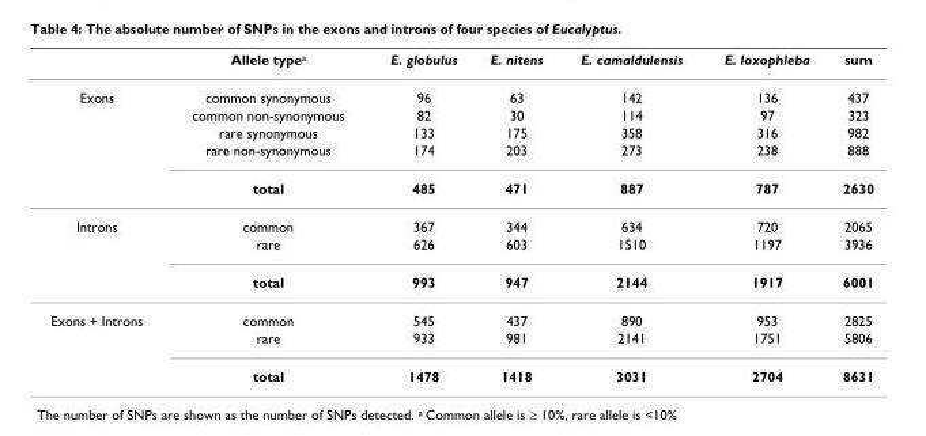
<table><thead><tr><td></td><td>Allele type<sup>a</sup></td><td>E. globulus</td><td>E. nitens</td><td>E. camaldulensis</td><td>E. loxophleba</td><td>sum</td></tr></thead><tbody><tr><td rowspan="5">Exons</td><td>common synonymous</td><td>96</td><td>63</td><td>142</td><td>136</td><td>437</td></tr><tr><td>common non-synonymous</td><td>82</td><td>30</td><td>114</td><td>97</td><td>323</td></tr><tr><td>rare synonymous</td><td>133</td><td>175</td><td>358</td><td>316</td><td>982</td></tr><tr><td>rare non-synonymous</td><td>174</td><td>203</td><td>273</td><td>238</td><td>888</td></tr><tr><td>total</td><td>485</td><td>471</td><td>887</td><td>787</td><td>2630</td></tr><tr><td rowspan="3">Introns</td><td>common</td><td>367</td><td>344</td><td>634</td><td>720</td><td>2065</td></tr><tr><td>rare</td><td>626</td><td>603</td><td>1510</td><td>1197</td><td>3936</td></tr><tr><td>total</td><td>993</td><td>947</td><td>2144</td><td>1917</td><td>6001</td></tr><tr><td rowspan="3">Exons + Introns</td><td>common</td><td>545</td><td>437</td><td>890</td><td>953</td><td>2825</td></tr><tr><td>rare</td><td>933</td><td>981</td><td>2141</td><td>1751</td><td>5806</td></tr><tr><td>total</td><td>1478</td><td>1418</td><td>3031</td><td>2704</td><td>8631</td></tr></tbody></table>